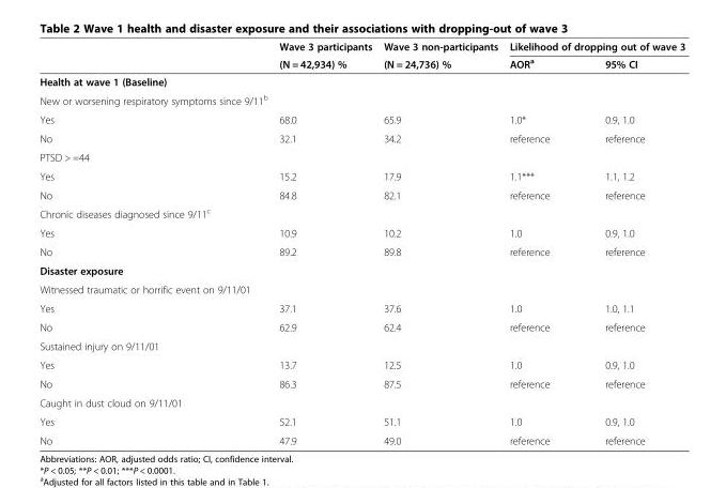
<table><thead><tr><td rowspan="2"></td><td rowspan="2">Wave 3 participants (N = 42,934) %</td><td rowspan="2">Wave 3 non-participants (N = 24,736) %</td><td colspan="2">Likelihood of dropping out of wave 3</td></tr><tr><td>AOR<sup>a</sup></td><td>95% CI</td></tr></thead><tbody><tr><td colspan="5">Health at wave 1 (Baseline)</td></tr><tr><td colspan="5">New or worsening respiratory symptoms since 9/11<sup>b</sup></td></tr><tr><td>Yes</td><td>68.0</td><td>65.9</td><td>1.0*</td><td>0.9, 1.0</td></tr><tr><td>No</td><td>32.1</td><td>34.2</td><td>reference</td><td>reference</td></tr><tr><td colspan="5">PTSD &gt; =44</td></tr><tr><td>Yes</td><td>15.2</td><td>17.9</td><td>1.1***</td><td>1.1, 1.2</td></tr><tr><td>No</td><td>84.8</td><td>82.1</td><td>reference</td><td>reference</td></tr><tr><td colspan="5">Chronic diseases diagnosed since 9/11<sup>c</sup></td></tr><tr><td>Yes</td><td>10.9</td><td>10.2</td><td>1.0</td><td>0.9, 1.0</td></tr><tr><td>No</td><td>89.2</td><td>89.8</td><td>reference</td><td>reference</td></tr><tr><td colspan="5">Disaster exposure</td></tr><tr><td colspan="5">Witnessed traumatic or horrific event on 9/11/01</td></tr><tr><td>Yes</td><td>37.1</td><td>37.6</td><td>1.0</td><td>1.0, 1.1</td></tr><tr><td>No</td><td>62.9</td><td>62.4</td><td>reference</td><td>reference</td></tr><tr><td colspan="5">Sustained injury on 9/11/01</td></tr><tr><td>Yes</td><td>13.7</td><td>12.5</td><td>1.0</td><td>0.9, 1.0</td></tr><tr><td>No</td><td>86.3</td><td>87.5</td><td>reference</td><td>reference</td></tr><tr><td colspan="5">Caught in dust cloud on 9/11/01</td></tr><tr><td>Yes</td><td>52.1</td><td>51.1</td><td>1.0</td><td>0.9, 1.0</td></tr><tr><td>No</td><td>47.9</td><td>49.0</td><td>reference</td><td>reference</td></tr></tbody></table>